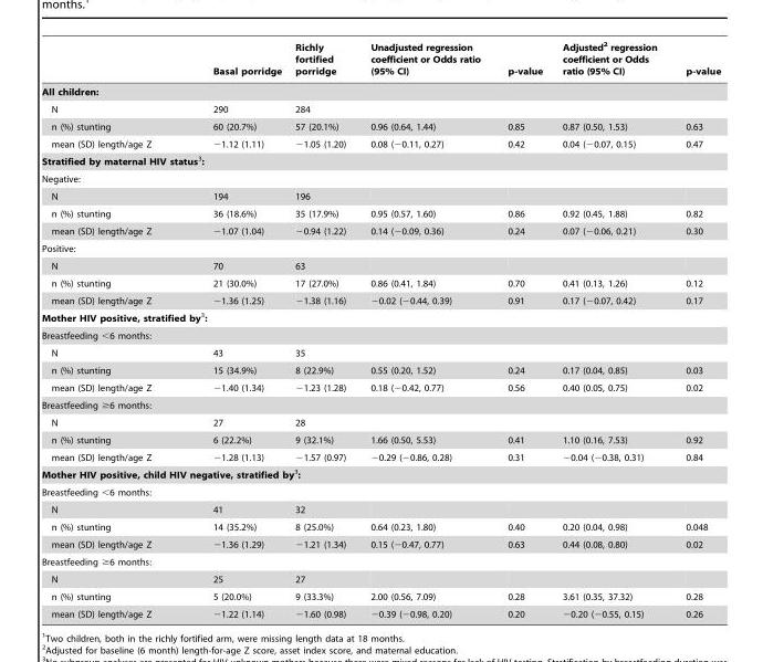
<table><thead><tr><td></td><td>Basal porridge</td><td>Richly fortified porridge</td><td>Unadjusted regression coefficient or Odds ratio (95% CI)</td><td>p-value</td><td>Adjusted<sup>2</sup> regression coefficient or Odds ratio (95% CI)</td><td>p-value</td></tr></thead><tbody><tr><td colspan="7">All children:</td></tr><tr><td>N</td><td>290</td><td>284</td><td></td><td></td><td></td><td></td></tr><tr><td>n (%) stunting</td><td>60 (20.7%)</td><td>57 (20.1%)</td><td>0.96 (0.64, 1.44)</td><td>0.85</td><td>0.87 (0.50, 1.53)</td><td>0.63</td></tr><tr><td>mean (SD) length/age Z</td><td>−1.12 (1.11)</td><td>−1.05 (1.20)</td><td>0.08 (−0.11, 0.27)</td><td>0.42</td><td>0.04 (−0.07, 0.15)</td><td>0.47</td></tr><tr><td colspan="7">Stratified by maternal HIV status3:</td></tr><tr><td colspan="7">Negative:</td></tr><tr><td>N</td><td>194</td><td>196</td><td></td><td></td><td></td><td></td></tr><tr><td>n (%) stunting</td><td>36 (18.6%)</td><td>35 (17.9%)</td><td>0.95 (0.57, 1.60)</td><td>0.86</td><td>0.92 (0.45, 1.88)</td><td>0.82</td></tr><tr><td>mean (SD) length/age Z</td><td>−1.07 (1.04)</td><td>−0.94 (1.22)</td><td>0.14 (−0.09, 0.36)</td><td>0.24</td><td>0.07 (−0.06, 0.21)</td><td>0.30</td></tr><tr><td colspan="7">Positive:</td></tr><tr><td>N</td><td>70</td><td>63</td><td></td><td></td><td></td><td></td></tr><tr><td>n (%) stunting</td><td>21 (30.0%)</td><td>17 (27.0%)</td><td>0.86 (0.41, 1.84)</td><td>0.70</td><td>0.41 (0.13, 1.26)</td><td>0.12</td></tr><tr><td>mean (SD) length/age Z</td><td>−1.36 (1.25)</td><td>−1.38 (1.16)</td><td>−0.02 (−0.44, 0.39)</td><td>0.91</td><td>0.17 (−0.07, 0.42)</td><td>0.17</td></tr><tr><td colspan="7">Mother HIV positive, stratified by3:</td></tr><tr><td colspan="7">Breastfeeding &lt;6 months:</td></tr><tr><td>N</td><td>43</td><td>35</td><td></td><td></td><td></td><td></td></tr><tr><td>n (%) stunting</td><td>15 (34.9%)</td><td>8 (22.9%)</td><td>0.55 (0.20, 1.52)</td><td>0.24</td><td>0.17 (0.04, 0.85)</td><td>0.03</td></tr><tr><td>mean (SD) length/age Z</td><td>−1.40 (1.34)</td><td>−1.23 (1.28)</td><td>0.18 (−0.42, 0.77)</td><td>0.56</td><td>0.40 (0.05, 0.75)</td><td>0.02</td></tr><tr><td colspan="7">Breastfeeding ≥6 months:</td></tr><tr><td>N</td><td>27</td><td>28</td><td></td><td></td><td></td><td></td></tr><tr><td>n (%) stunting</td><td>6 (22.2%)</td><td>9 (32.1%)</td><td>1.66 (0.50, 5.53)</td><td>0.41</td><td>1.10 (0.16, 7.53)</td><td>0.92</td></tr><tr><td>mean (SD) length/age Z</td><td>−1.28 (1.13)</td><td>−1.57 (0.97)</td><td>−0.29 (−0.86, 0.28)</td><td>0.31</td><td>−0.04 (−0.38, 0.31)</td><td>0.84</td></tr><tr><td colspan="7">Mother HIV positive, child HIV negative, stratified by3:</td></tr><tr><td colspan="7">Breastfeeding &lt;6 months:</td></tr><tr><td>N</td><td>41</td><td>32</td><td></td><td></td><td></td><td></td></tr><tr><td>n (%) stunting</td><td>14 (35.2%)</td><td>8 (25.0%)</td><td>0.64 (0.23, 1.80)</td><td>0.40</td><td>0.20 (0.04, 0.98)</td><td>0.048</td></tr><tr><td>mean (SD) length/age Z</td><td>−1.36 (1.29)</td><td>−1.21 (1.34)</td><td>0.15 (−0.47, 0.77)</td><td>0.63</td><td>0.44 (0.08, 0.80)</td><td>0.02</td></tr><tr><td colspan="7">Breastfeeding ≥6 months:</td></tr><tr><td>N</td><td>25</td><td>27</td><td></td><td></td><td></td><td></td></tr><tr><td>n (%) stunting</td><td>5 (20.0%)</td><td>9 (33.3%)</td><td>2.00 (0.56, 7.09)</td><td>0.28</td><td>3.61 (0.35, 37.32)</td><td>0.28</td></tr><tr><td>mean (SD) length/age Z</td><td>−1.22 (1.14)</td><td>−1.60 (0.98)</td><td>−0.39 (−0.98, 0.20)</td><td>0.20</td><td>−0.20 (−0.55, 0.15)</td><td>0.26</td></tr></tbody></table>